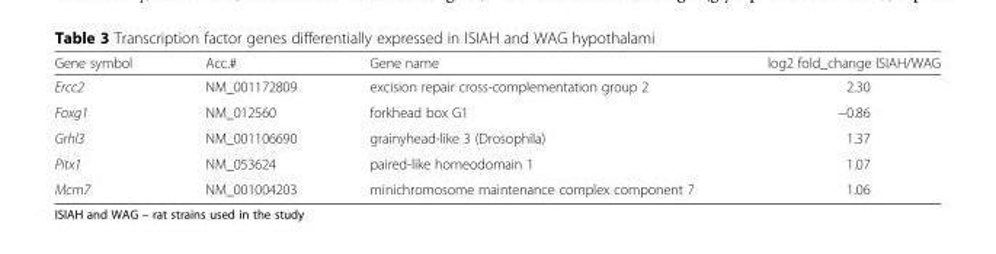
<table><thead><tr><td>Gene symbol</td><td>Acc.#</td><td>Gene name</td><td>log2 fold_change ISIAH/WAG</td></tr></thead><tbody><tr><td>Ercc2</td><td>NM_001172809</td><td>excision repair cross-complementation group 2</td><td>2.30</td></tr><tr><td>Foxg1</td><td>NM_012560</td><td>forkhead box G1</td><td>−0.86</td></tr><tr><td>Grhl3</td><td>NM_001106690</td><td>grainyhead-like 3 (Drosophila)</td><td>1.37</td></tr><tr><td>Pitx1</td><td>NM_053624</td><td>paired-like homeodomain 1</td><td>1.07</td></tr><tr><td>Mcm7</td><td>NM_001004203</td><td>minichromosome maintenance complex component 7</td><td>1.06</td></tr></tbody></table>